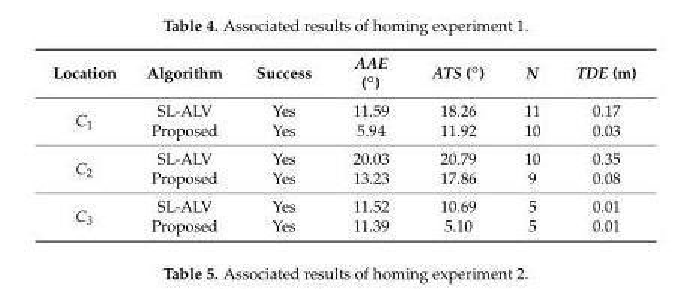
<table><thead><tr><td>Location</td><td>Algorithm</td><td>Success</td><td>AAE (◦)</td><td>ATS (◦)</td><td>N</td><td>TDE (m)</td></tr></thead><tbody><tr><td rowspan="2">C<sub>1</sub></td><td>SL-ALV</td><td>Yes</td><td>11.59</td><td>18.26</td><td>11</td><td>0.17</td></tr><tr><td>Proposed</td><td>Yes</td><td>5.94</td><td>11.92</td><td>10</td><td>0.03</td></tr><tr><td rowspan="2">C<sub>2</sub></td><td>SL-ALV</td><td>Yes</td><td>20.03</td><td>20.79</td><td>10</td><td>0.35</td></tr><tr><td>Proposed</td><td>Yes</td><td>13.23</td><td>17.86</td><td>9</td><td>0.08</td></tr><tr><td rowspan="2">C<sub>3</sub></td><td>SL-ALV</td><td>Yes</td><td>11.52</td><td>10.69</td><td>5</td><td>0.01</td></tr><tr><td>Proposed</td><td>Yes</td><td>11.39</td><td>5.10</td><td>5</td><td>0.01</td></tr></tbody></table>